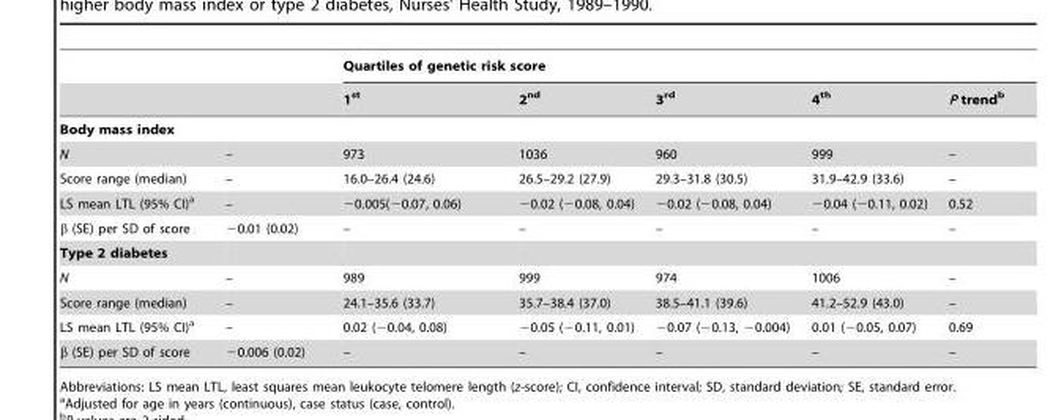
<table><thead><tr><td rowspan="2"></td><td rowspan="2"></td><td colspan="5">Quartiles of genetic risk score</td></tr><tr><td>1<sup>st</sup></td><td>2<sup>nd</sup></td><td>3<sup>rd</sup></td><td>4<sup>th</sup></td><td>P trend<sup>b</sup></td></tr></thead><tbody><tr><td colspan="7">Body mass index</td></tr><tr><td>N</td><td>–</td><td>973</td><td>1036</td><td>960</td><td>999</td><td>–</td></tr><tr><td>Score range (median)</td><td>–</td><td>16.0–26.4 (24.6)</td><td>26.5–29.2 (27.9)</td><td>29.3–31.8 (30.5)</td><td>31.9–42.9 (33.6)</td><td>–</td></tr><tr><td>LS mean LTL (95% CI)<sup>a</sup></td><td>–</td><td>−0.005(−0.07, 0.06)</td><td>−0.02 (−0.08, 0.04)</td><td>−0.02 (−0.08, 0.04)</td><td>−0.04 (−0.11, 0.02)</td><td>0.52</td></tr><tr><td>β (SE) per SD of score</td><td>−0.01 (0.02)</td><td>–</td><td>–</td><td>–</td><td>–</td><td>–</td></tr><tr><td colspan="7">Type 2 diabetes</td></tr><tr><td>N</td><td>–</td><td>989</td><td>999</td><td>974</td><td>1006</td><td>–</td></tr><tr><td>Score range (median)</td><td>–</td><td>24.1–35.6 (33.7)</td><td>35.7–38.4 (37.0)</td><td>38.5–41.1 (39.6)</td><td>41.2–52.9 (43.0)</td><td>–</td></tr><tr><td>LS mean LTL (95% CI)<sup>a</sup></td><td>–</td><td>0.02 (−0.04, 0.08)</td><td>−0.05 (−0.11, 0.01)</td><td>−0.07 (−0.13, −0.004)</td><td>0.01 (−0.05, 0.07)</td><td>0.69</td></tr><tr><td>β (SE) per SD of score</td><td>−0.006 (0.02)</td><td>–</td><td>–</td><td>–</td><td>–</td><td>–</td></tr></tbody></table>